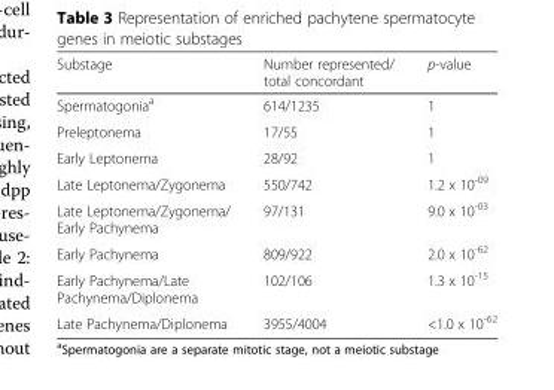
<table><thead><tr><td>Substage</td><td>Number represented/ total concordant</td><td>p-value</td></tr></thead><tbody><tr><td>Spermatogonia<sup>a</sup></td><td>614/1235</td><td>1</td></tr><tr><td>Preleptonema</td><td>17/55</td><td>1</td></tr><tr><td>Early Leptonema</td><td>28/92</td><td>1</td></tr><tr><td>Late Leptonema/Zygonema</td><td>550/742</td><td>1.2 x 10<sup>-09</sup></td></tr><tr><td>Late Leptonema/Zygonema/ Early Pachynema</td><td>97/131</td><td>9.0 x 10<sup>-03</sup></td></tr><tr><td>Early Pachynema</td><td>809/922</td><td>2.0 x 10<sup>-62</sup></td></tr><tr><td>Early Pachynema/Late Pachynema/Diplonema</td><td>102/106</td><td>1.3 x 10<sup>-15</sup></td></tr><tr><td>Late Pachynema/Diplonema</td><td>3955/4004</td><td>&lt;1.0 x 10<sup>-62</sup></td></tr></tbody></table>